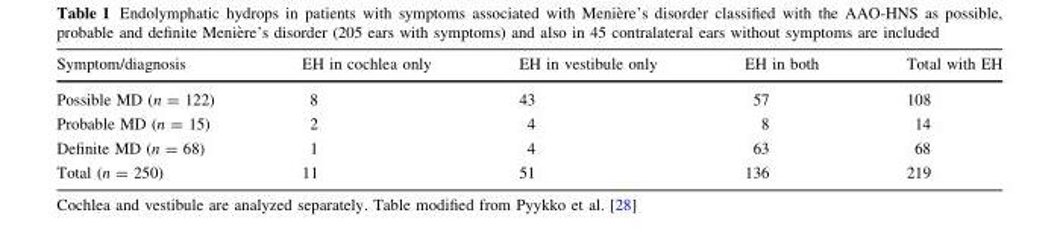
<table><thead><tr><td>Symptom/diagnosis</td><td>EH in cochlea only</td><td>EH in vestibule only</td><td>EH in both</td><td>Total with EH</td></tr></thead><tbody><tr><td>Possible MD (n = 122)</td><td>8</td><td>43</td><td>57</td><td>108</td></tr><tr><td>Probable MD (n = 15)</td><td>2</td><td>4</td><td>8</td><td>14</td></tr><tr><td>Definite MD (n = 68)</td><td>1</td><td>4</td><td>63</td><td>68</td></tr><tr><td>Total (n = 250)</td><td>11</td><td>51</td><td>136</td><td>219</td></tr></tbody></table>